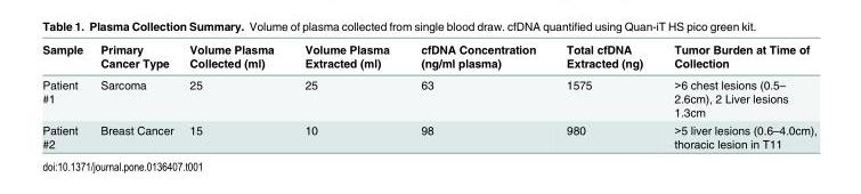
<table><thead><tr><td>Sample</td><td>Primary Cancer Type</td><td>Volume Plasma Collected (ml)</td><td>Volume Plasma Extracted (ml)</td><td>cfDNA Concentration (ng/ml plasma)</td><td>Total cfDNA Extracted (ng)</td><td>Tumor Burden at Time of Collection</td></tr></thead><tbody><tr><td>Patient #1</td><td>Sarcoma</td><td>25</td><td>25</td><td>63</td><td>1575</td><td>&gt;6 chest lesions (0.5– 2.6cm), 2 Liver lesions 1.3cm</td></tr><tr><td>Patient #2</td><td>Breast Cancer</td><td>15</td><td>10</td><td>98</td><td>980</td><td>&gt;5 liver lesions (0.6–4.0cm), thoracic lesion in T11</td></tr></tbody></table>